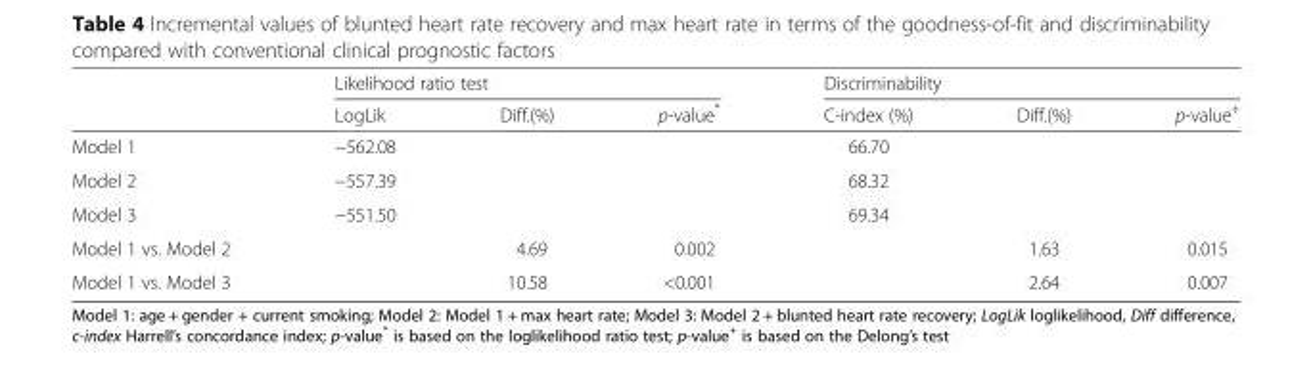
<table><thead><tr><td rowspan="2"></td><td colspan="3">Likelihood ratio test</td><td colspan="3">Discriminability</td></tr><tr><td>LogLik</td><td>Diff.(%)</td><td>p-value*</td><td>C-index (%)</td><td>Diff.(%)</td><td>p-value<sup>+</sup></td></tr></thead><tbody><tr><td>Model 1</td><td>−562.08</td><td></td><td></td><td>66.70</td><td></td><td></td></tr><tr><td>Model 2</td><td>−557.39</td><td></td><td></td><td>68.32</td><td></td><td></td></tr><tr><td>Model 3</td><td>−551.50</td><td></td><td></td><td>69.34</td><td></td><td></td></tr><tr><td>Model 1 vs. Model 2</td><td></td><td>4.69</td><td>0.002</td><td></td><td>1.63</td><td>0.015</td></tr><tr><td>Model 1 vs. Model 3</td><td></td><td>10.58</td><td>&lt;0.001</td><td></td><td>2.64</td><td>0.007</td></tr></tbody></table>